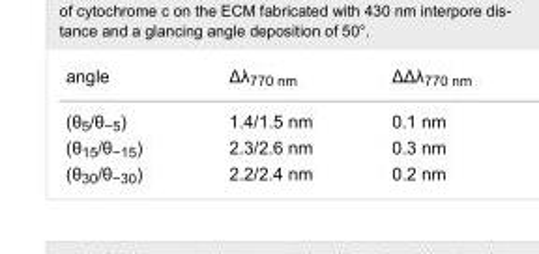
<table><tbody><tr><td>angle</td><td>Δλ<sub>770 nm</sub></td><td>ΔΔλ<sub>770 nm</sub></td></tr><tr><td>(θ<sub>5</sub>/θ<sub>−5</sub>)</td><td>1.4/1.5 nm</td><td>0.1 nm</td></tr><tr><td>(θ<sub>15</sub>/θ<sub>−15</sub>)</td><td>2.3/2.6 nm</td><td>0.3 nm</td></tr><tr><td>(θ<sub>30</sub>/θ<sub>−30</sub>)</td><td>2.2/2.4 nm</td><td>0.2 nm</td></tr></tbody></table>